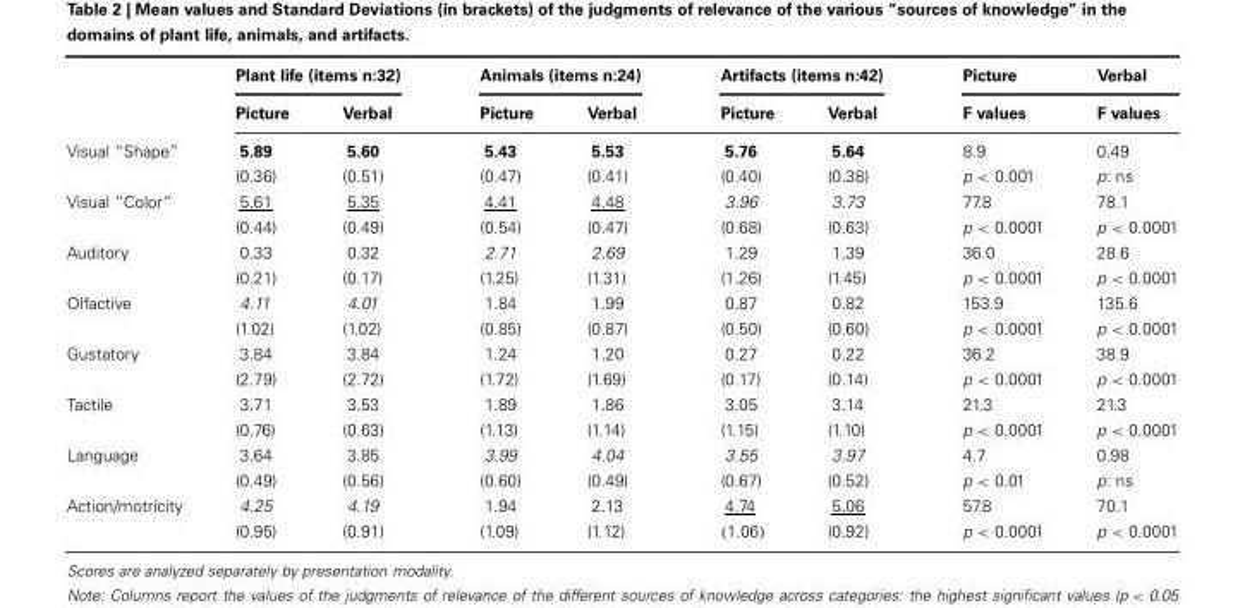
<table><thead><tr><td rowspan="2"></td><td colspan="2">Plant life (items n:32)</td><td colspan="2">Animals (items n:24)</td><td colspan="2">Artifacts (items n:42)</td><td rowspan="2">Picture F values</td><td rowspan="2">Verbal F values</td></tr><tr><td>Picture</td><td>Verbal</td><td>Picture</td><td>Verbal</td><td>Picture</td><td>Verbal</td></tr></thead><tbody><tr><td rowspan="2">Visual “Shape”</td><td>5.89</td><td>5.60</td><td>5.43</td><td>5.53</td><td>5.76</td><td>5.64</td><td>8.9</td><td>0.49</td></tr><tr><td>(0.36)</td><td>(0.51)</td><td>(0.47)</td><td>(0.41)</td><td>(0.40)</td><td>(0.38)</td><td>p &lt; 0.001</td><td>p: ns</td></tr><tr><td rowspan="2">Visual “Color”</td><td>5.61</td><td>5.35</td><td>4.41</td><td>4.48</td><td>3.96</td><td>3.73</td><td>77.8</td><td>78.1</td></tr><tr><td>(0.44)</td><td>(0.49)</td><td>(0.54)</td><td>(0.47)</td><td>(0.68)</td><td>(0.63)</td><td>p &lt; 0.0001</td><td>p &lt; 0.0001</td></tr><tr><td rowspan="2">Auditory</td><td>0.33</td><td>0.32</td><td>2.71</td><td>2.69</td><td>1.29</td><td>1.39</td><td>36.0</td><td>28.6</td></tr><tr><td>(0.21)</td><td>(0.17)</td><td>(1.25)</td><td>(1.31)</td><td>(1.26)</td><td>(1.45)</td><td>p &lt; 0.0001</td><td>p &lt; 0.0001</td></tr><tr><td rowspan="2">Olfactive</td><td>4.11</td><td>4.01</td><td>1.84</td><td>1.99</td><td>0.87</td><td>0.82</td><td>153.9</td><td>135.6</td></tr><tr><td>(1.02)</td><td>(1.02)</td><td>(0.85)</td><td>(0.87)</td><td>(0.50)</td><td>(0.60)</td><td>p &lt; 0.0001</td><td>p &lt; 0.0001</td></tr><tr><td rowspan="2">Gustatory</td><td>3.84</td><td>3.84</td><td>1.24</td><td>1.20</td><td>0.27</td><td>0.22</td><td>36.2</td><td>38.9</td></tr><tr><td>(2.79)</td><td>(2.72)</td><td>(1.72)</td><td>(1.69)</td><td>(0.17)</td><td>(0.14)</td><td>p &lt; 0.0001</td><td>p &lt; 0.0001</td></tr><tr><td rowspan="2">Tactile</td><td>3.71</td><td>3.53</td><td>1.89</td><td>1.86</td><td>3.05</td><td>3.14</td><td>21.3</td><td>21.3</td></tr><tr><td>(0.76)</td><td>(0.63)</td><td>(1.13)</td><td>(1.14)</td><td>(1.15)</td><td>(1.10)</td><td>p &lt; 0.0001</td><td>p &lt; 0.0001</td></tr><tr><td rowspan="2">Language</td><td>3.64</td><td>3.85</td><td>3.99</td><td>4.04</td><td>3.55</td><td>3.97</td><td>4.7</td><td>0.98</td></tr><tr><td>(0.49)</td><td>(0.56)</td><td>(0.60)</td><td>(0.49)</td><td>(0.67)</td><td>(0.52)</td><td>p &lt; 0.01</td><td>p: ns</td></tr><tr><td rowspan="2">Action/motricity</td><td>4.25</td><td>4.19</td><td>1.94</td><td>2.13</td><td>4.74</td><td>5.06</td><td>57.8</td><td>70.1</td></tr><tr><td>(0.95)</td><td>(0.91)</td><td>(1.09)</td><td>(1.12)</td><td>(1.06)</td><td>(0.92)</td><td>p &lt; 0.0001</td><td>p &lt; 0.0001</td></tr></tbody></table>